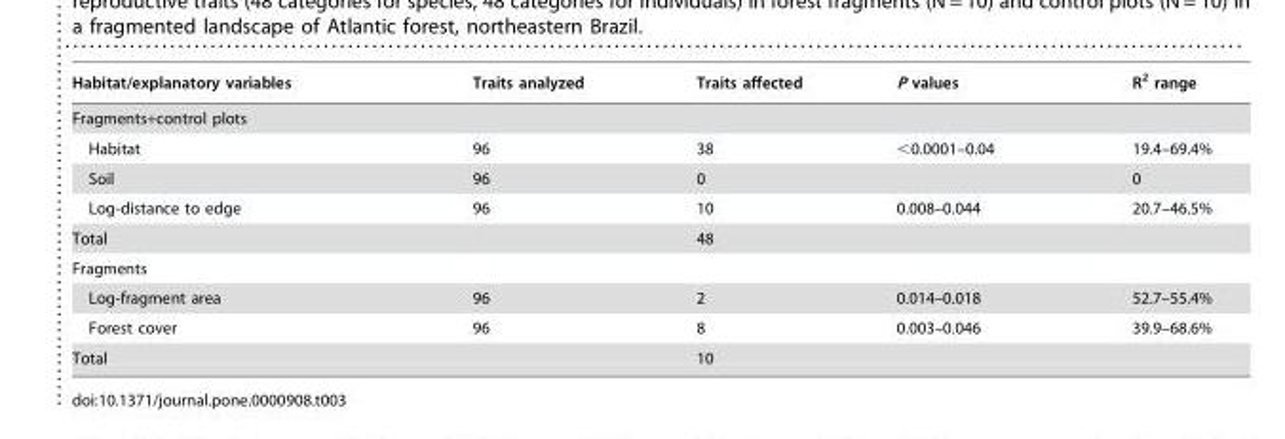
<table><thead><tr><td>Habitat/explanatory variables</td><td>Traits analyzed</td><td>Traits affected</td><td>P values</td><td>R<sup>2</sup> range</td></tr></thead><tbody><tr><td colspan="5">Fragments+control plots</td></tr><tr><td>Habitat</td><td>96</td><td>38</td><td>&lt;0.0001–0.04</td><td>19.4–69.4%</td></tr><tr><td>Soil</td><td>96</td><td>0</td><td></td><td>0</td></tr><tr><td>Log-distance to edge</td><td>96</td><td>10</td><td>0.008–0.044</td><td>20.7–46.5%</td></tr><tr><td>Total</td><td></td><td>48</td><td></td><td></td></tr><tr><td colspan="5">Fragments</td></tr><tr><td>Log-fragment area</td><td>96</td><td>2</td><td>0.014–0.018</td><td>52.7–55.4%</td></tr><tr><td>Forest cover</td><td>96</td><td>8</td><td>0.003–0.046</td><td>39.9–68.6%</td></tr><tr><td>Total</td><td></td><td>10</td><td></td><td></td></tr></tbody></table>